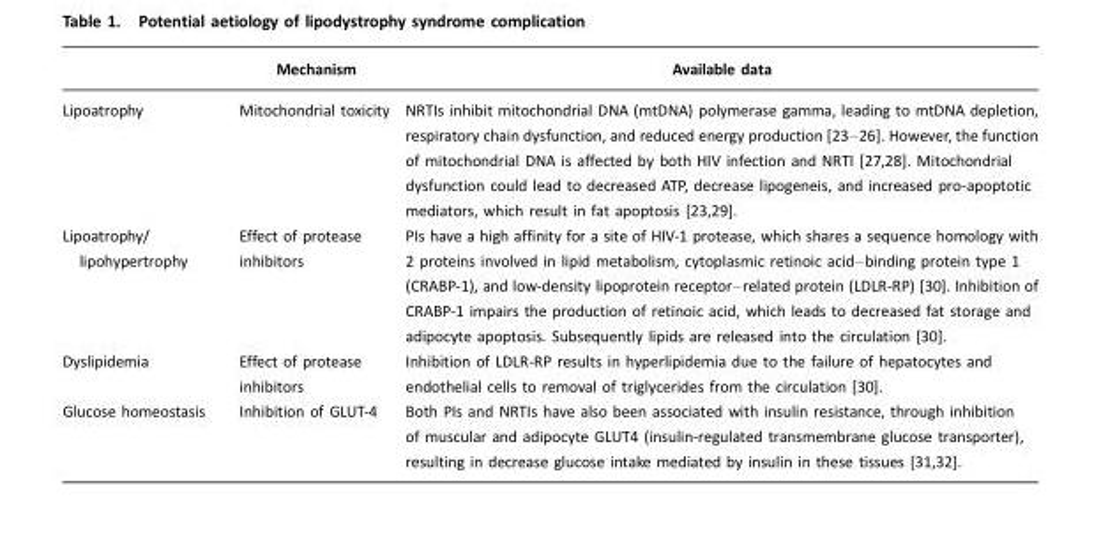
<table><thead><tr><td></td><td>Mechanism</td><td>Available data</td></tr></thead><tbody><tr><td>Lipoatrophy</td><td>Mitochondrial toxicity</td><td>NRTIs inhibit mitochondrial DNA (mtDNA) polymerase gamma, leading to mtDNA depletion, respiratory chain dysfunction, and reduced energy production [23–26]. However, the function of mitochondrial DNA is affected by both HIV infection and NRTI [27,28]. Mitochondrial dysfunction could lead to decreased ATP, decrease lipogeneis, and increased pro-apoptotic mediators, which result in fat apoptosis [23,29].</td></tr><tr><td>Lipoatrophy/ lipohypertrophy</td><td>Effect of protease inhibitors</td><td>PIs have a high affinity for a site of HIV-1 protease, which shares a sequence homology with 2 proteins involved in lipid metabolism, cytoplasmic retinoic acid–binding protein type 1 (CRABP-1), and low-density lipoprotein receptor–related protein (LDLR-RP) [30]. Inhibition of CRABP-1 impairs the production of retinoic acid, which leads to decreased fat storage and adipocyte apoptosis. Subsequently lipids are released into the circulation [30].</td></tr><tr><td>Dyslipidemia</td><td>Effect of protease inhibitors</td><td>Inhibition of LDLR-RP results in hyperlipidemia due to the failure of hepatocytes and endothelial cells to removal of triglycerides from the circulation [30].</td></tr><tr><td>Glucose homeostasis</td><td>Inhibition of GLUT-4</td><td>Both PIs and NRTIs have also been associated with insulin resistance, through inhibition of muscular and adipocyte GLUT4 (insulin-regulated transmembrane glucose transporter), resulting in decrease glucose intake mediated by insulin in these tissues [31,32].</td></tr></tbody></table>